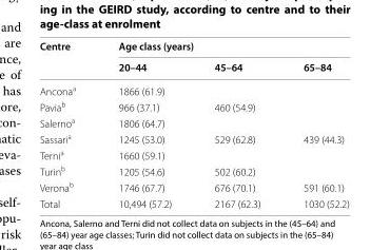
<table><thead><tr><td rowspan="2">Centre</td><td colspan="3">Age class (years)</td></tr><tr><td>20–44</td><td>45–64</td><td>65–84</td></tr></thead><tbody><tr><td>Ancona<sup>a</sup></td><td>1866 (61.9)</td><td></td><td></td></tr><tr><td>Pavia<sup>b</sup></td><td>966 (37.1)</td><td>460 (54.9)</td><td></td></tr><tr><td>Salerno<sup>a</sup></td><td>1806 (64.7)</td><td></td><td></td></tr><tr><td>Sassari<sup>a</sup></td><td>1245 (53.0)</td><td>529 (62.8)</td><td>439 (44.3)</td></tr><tr><td>Terni<sup>a</sup></td><td>1660 (59.1)</td><td></td><td></td></tr><tr><td>Turin<sup>b</sup></td><td>1205 (54.6)</td><td>502 (60.2)</td><td></td></tr><tr><td>Verona<sup>b</sup></td><td>1746 (67.7)</td><td>676 (70.1)</td><td>591 (60.1)</td></tr><tr><td>Total</td><td>10,494 (57.2)</td><td>2167 (62.3)</td><td>1030 (52.2)</td></tr></tbody></table>